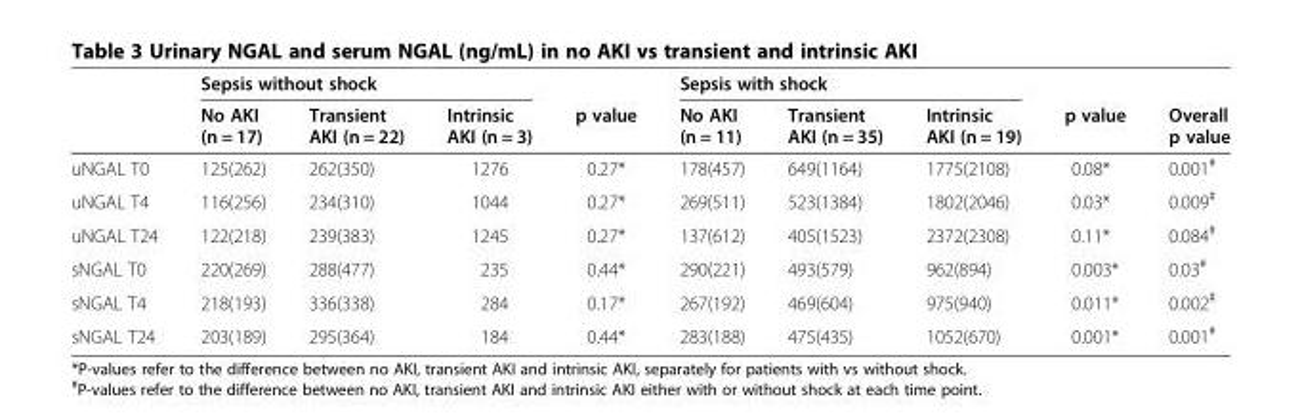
<table><thead><tr><td rowspan="2"></td><td colspan="3">Sepsis without shock</td><td rowspan="2">p value</td><td colspan="3">Sepsis with shock</td><td rowspan="2">p value</td><td rowspan="2">Overall p value</td></tr><tr><td>No AKI (n = 17)</td><td>Transient AKI (n = 22)</td><td>Intrinsic AKI (n = 3)</td><td>No AKI (n = 11)</td><td>Transient AKI (n = 35)</td><td>Intrinsic AKI (n = 19)</td></tr></thead><tbody><tr><td>uNGAL T0</td><td>125(262)</td><td>262(350)</td><td>1276</td><td>0.27*</td><td>178(457)</td><td>649(1164)</td><td>1775(2108)</td><td>0.08*</td><td>0.001<sup>#</sup></td></tr><tr><td>uNGAL T4</td><td>116(256)</td><td>234(310)</td><td>1044</td><td>0.27*</td><td>269(511)</td><td>523(1384)</td><td>1802(2046)</td><td>0.03*</td><td>0.009<sup>#</sup></td></tr><tr><td>uNGAL T24</td><td>122(218)</td><td>239(383)</td><td>1245</td><td>0.27*</td><td>137(612)</td><td>405(1523)</td><td>2372(2308)</td><td>0.11*</td><td>0.084<sup>#</sup></td></tr><tr><td>sNGAL T0</td><td>220(269)</td><td>288(477)</td><td>235</td><td>0.44*</td><td>290(221)</td><td>493(579)</td><td>962(894)</td><td>0.003*</td><td>0.03<sup>#</sup></td></tr><tr><td>sNGAL T4</td><td>218(193)</td><td>336(338)</td><td>284</td><td>0.17*</td><td>267(192)</td><td>469(604)</td><td>975(940)</td><td>0.011*</td><td>0.002<sup>#</sup></td></tr><tr><td>sNGAL T24</td><td>203(189)</td><td>295(364)</td><td>184</td><td>0.44*</td><td>283(188)</td><td>475(435)</td><td>1052(670)</td><td>0.001*</td><td>0.001<sup>#</sup></td></tr></tbody></table>